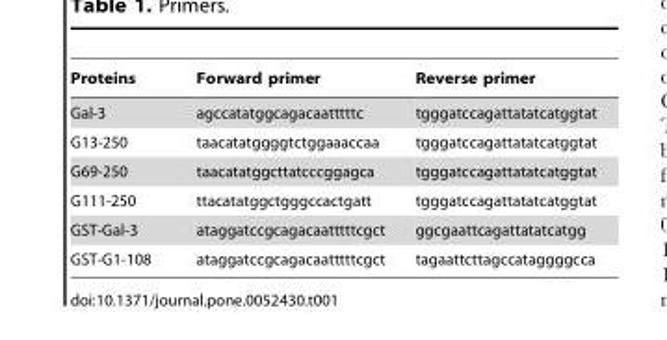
<table><thead><tr><td>Proteins</td><td>Forward primer</td><td>Reverse primer</td></tr></thead><tbody><tr><td>Gal-3</td><td>agccatatggcagacaatttttc</td><td>tgggatccagattatatcatggtat</td></tr><tr><td>G13-250</td><td>taacatatggggtctggaaaccaa</td><td>tgggatccagattatatcatggtat</td></tr><tr><td>G69-250</td><td>taacatatggcttatcccggagca</td><td>tgggatccagattatatcatggtat</td></tr><tr><td>G111-250</td><td>ttacatatggctgggccactgatt</td><td>tgggatccagattatatcatggtat</td></tr><tr><td>GST-Gal-3</td><td>ataggatccgcagacaatttttcgct</td><td>ggcgaattcagattatatcatgg</td></tr><tr><td>GST-G1-108</td><td>ataggatccgcagacaatttttcgct</td><td>tagaattcttagccataggggcca</td></tr></tbody></table>